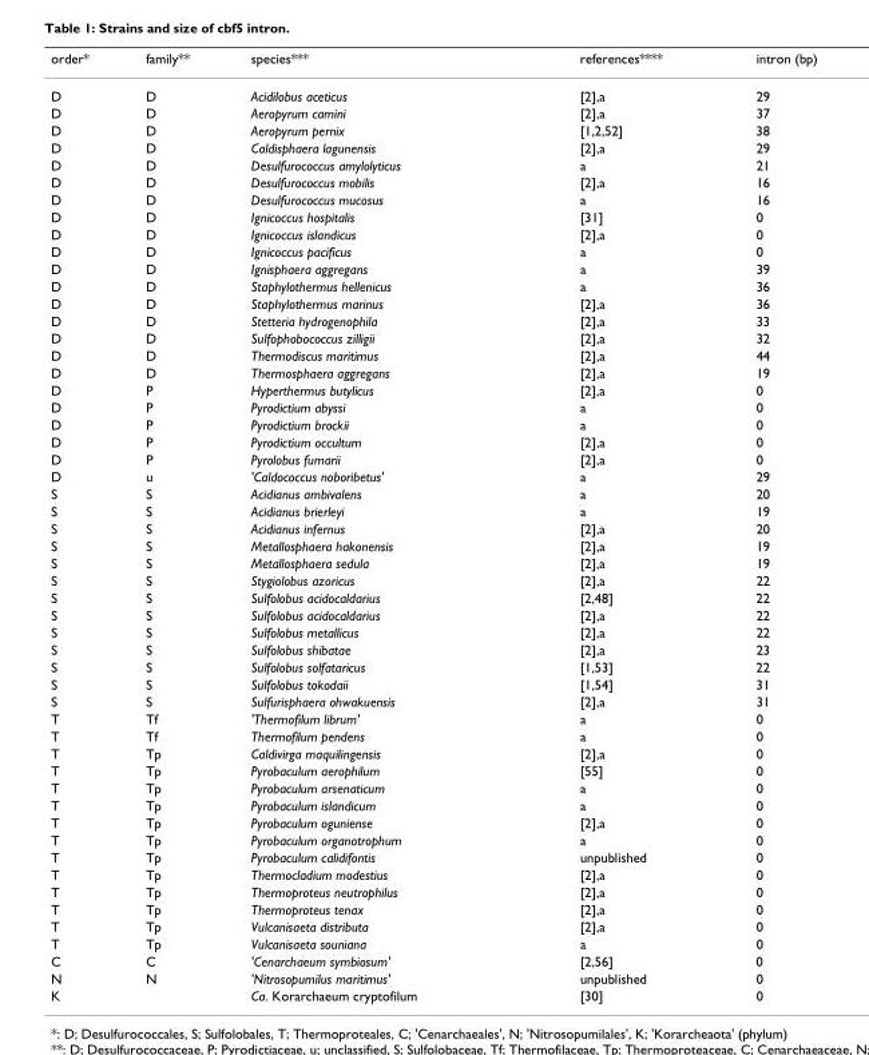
<table><thead><tr><td>order*</td><td>family**</td><td>species***</td><td>references****</td><td>intron (bp)</td></tr></thead><tbody><tr><td>D</td><td>D</td><td>Acidilobus aceticus</td><td>[2],a</td><td>29</td></tr><tr><td>D</td><td>D</td><td>Aeropyrum camini</td><td>[2],a</td><td>37</td></tr><tr><td>D</td><td>D</td><td>Aeropyrum pernix</td><td>[1,2,52]</td><td>38</td></tr><tr><td>D</td><td>D</td><td>Caldisphaera lagunensis</td><td>[2],a</td><td>29</td></tr><tr><td>D</td><td>D</td><td>Desulfurococcus amylolyticus</td><td>a</td><td>21</td></tr><tr><td>D</td><td>D</td><td>Desulfurococcus mobilis</td><td>[2],a</td><td>16</td></tr><tr><td>D</td><td>D</td><td>Desulfurococcus mucosus</td><td>a</td><td>16</td></tr><tr><td>D</td><td>D</td><td>Ignicoccus hospitalis</td><td>[31]</td><td>0</td></tr><tr><td>D</td><td>D</td><td>Ignicoccus islandicus</td><td>[2],a</td><td>0</td></tr><tr><td>D</td><td>D</td><td>Ignicoccus pacificus</td><td>a</td><td>0</td></tr><tr><td>D</td><td>D</td><td>Ignisphaera aggregans</td><td>a</td><td>39</td></tr><tr><td>D</td><td>D</td><td>Staphylothermus hellenicus</td><td>a</td><td>36</td></tr><tr><td>D</td><td>D</td><td>Staphylothermus marinus</td><td>[2],a</td><td>36</td></tr><tr><td>D</td><td>D</td><td>Stetteria hydrogenophila</td><td>[2],a</td><td>33</td></tr><tr><td>D</td><td>D</td><td>Sulfophobococcus zilligii</td><td>[2],a</td><td>32</td></tr><tr><td>D</td><td>D</td><td>Thermodiscus maritimus</td><td>[2],a</td><td>44</td></tr><tr><td>D</td><td>D</td><td>Thermosphaera aggregans</td><td>[2],a</td><td>19</td></tr><tr><td>D</td><td>P</td><td>Hyperthermus butylicus</td><td>[2],a</td><td>0</td></tr><tr><td>D</td><td>P</td><td>Pyrodictium abyssi</td><td>a</td><td>0</td></tr><tr><td>D</td><td>P</td><td>Pyrodictium brockii</td><td>a</td><td>0</td></tr><tr><td>D</td><td>P</td><td>Pyrodictium occultum</td><td>[2],a</td><td>0</td></tr><tr><td>D</td><td>P</td><td>Pyrolobus fumarii</td><td>[2],a</td><td>0</td></tr><tr><td>D</td><td>u</td><td>&#x27;Caldococcus noboribetus&#x27;</td><td>a</td><td>29</td></tr><tr><td>S</td><td>S</td><td>Acidianus ambivalens</td><td>a</td><td>20</td></tr><tr><td>S</td><td>S</td><td>Acidianus brierleyi</td><td>a</td><td>19</td></tr><tr><td>S</td><td>S</td><td>Acidianus infernus</td><td>[2],a</td><td>20</td></tr><tr><td>S</td><td>S</td><td>Metallosphaera hakonensis</td><td>[2],a</td><td>19</td></tr><tr><td>S</td><td>S</td><td>Metallosphaera sedula</td><td>[2],a</td><td>19</td></tr><tr><td>S</td><td>S</td><td>Stygiolobus azoricus</td><td>[2],a</td><td>22</td></tr><tr><td>S</td><td>S</td><td>Sulfolobus acidocaldarius</td><td>[2,48]</td><td>22</td></tr><tr><td>S</td><td>S</td><td>Sulfolobus acidocaldarius</td><td>[2],a</td><td>22</td></tr><tr><td>S</td><td>S</td><td>Sulfolobus metallicus</td><td>[2],a</td><td>22</td></tr><tr><td>S</td><td>S</td><td>Sulfolobus shibatae</td><td>[2],a</td><td>23</td></tr><tr><td>S</td><td>S</td><td>Sulfolobus solfataricus</td><td>[1,53]</td><td>22</td></tr><tr><td>S</td><td>S</td><td>Sulfolobus tokodaii</td><td>[1,54]</td><td>31</td></tr><tr><td>S</td><td>S</td><td>Sulfurisphaera ohwakuensis</td><td>[2],a</td><td>31</td></tr><tr><td>T</td><td>Tf</td><td>&#x27;Thermofilum librum&#x27;</td><td>a</td><td>0</td></tr><tr><td>T</td><td>Tf</td><td>Thermofilum pendens</td><td>a</td><td>0</td></tr><tr><td>T</td><td>Tp</td><td>Caldivirga maquilingensis</td><td>[2],a</td><td>0</td></tr><tr><td>T</td><td>Tp</td><td>Pyrobaculum aerophilum</td><td>[55]</td><td>0</td></tr><tr><td>T</td><td>Tp</td><td>Pyrobaculum arsenaticum</td><td>a</td><td>0</td></tr><tr><td>T</td><td>Tp</td><td>Pyrobaculum islandicum</td><td>a</td><td>0</td></tr><tr><td>T</td><td>Tp</td><td>Pyrobaculum oguniense</td><td>[2],a</td><td>0</td></tr><tr><td>T</td><td>Tp</td><td>Pyrobaculum organotrophum</td><td>a</td><td>0</td></tr><tr><td>T</td><td>Tp</td><td>Pyrobaculum calidifontis</td><td>unpublished</td><td>0</td></tr><tr><td>T</td><td>Tp</td><td>Thermocladium modestius</td><td>[2],a</td><td>0</td></tr><tr><td>T</td><td>Tp</td><td>Thermoproteus neutrophilus</td><td>[2],a</td><td>0</td></tr><tr><td>T</td><td>Tp</td><td>Thermoproteus tenax</td><td>[2],a</td><td>0</td></tr><tr><td>T</td><td>Tp</td><td>Vulcanisaeta distributa</td><td>[2],a</td><td>0</td></tr><tr><td>T</td><td>Tp</td><td>Vulcanisaeta souniana</td><td>a</td><td>0</td></tr><tr><td>C</td><td>C</td><td>&#x27;Cenarchaeum symbiosum&#x27;</td><td>[2,56]</td><td>0</td></tr><tr><td>N</td><td>N</td><td>&#x27;Nitrosopumilus maritimus&#x27;</td><td>unpublished</td><td>0</td></tr><tr><td>K</td><td></td><td>Ca. Korarchaeum cryptofilum</td><td>[30]</td><td>0</td></tr></tbody></table>